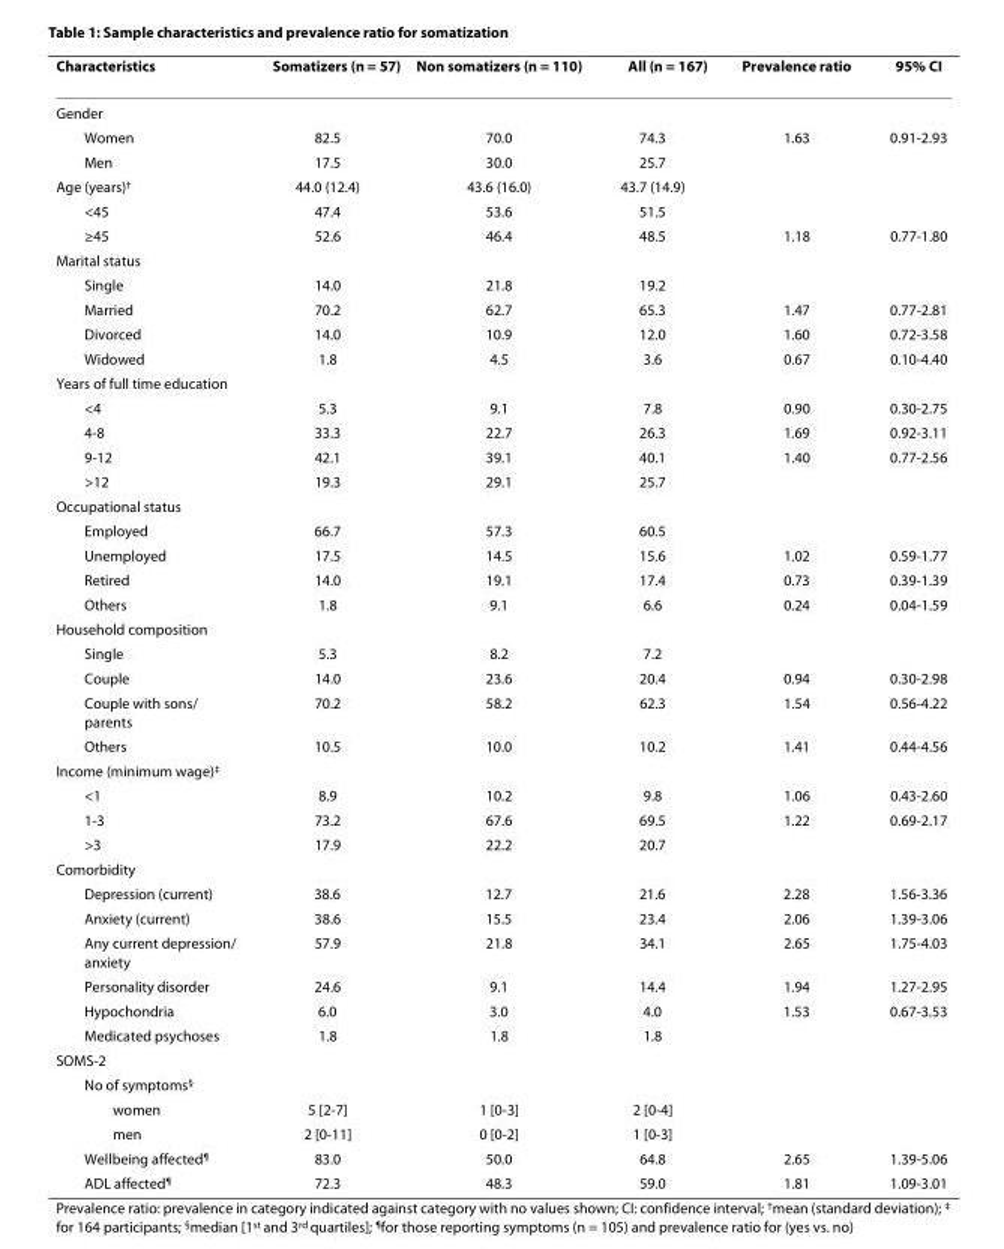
<table><thead><tr><td>Characteristics</td><td>Somatizers (n = 57)</td><td>Non somatizers (n = 110)</td><td>All (n = 167)</td><td>Prevalence ratio</td><td>95% CI</td></tr></thead><tbody><tr><td colspan="6">Gender</td></tr><tr><td>Women</td><td>82.5</td><td>70.0</td><td>74.3</td><td>1.63</td><td>0.91-2.93</td></tr><tr><td>Men</td><td>17.5</td><td>30.0</td><td>25.7</td><td></td><td></td></tr><tr><td>Age (years)<sup>†</sup></td><td>44.0 (12.4)</td><td>43.6 (16.0)</td><td>43.7 (14.9)</td><td></td><td></td></tr><tr><td>&lt;45</td><td>47.4</td><td>53.6</td><td>51.5</td><td></td><td></td></tr><tr><td>≥45</td><td>52.6</td><td>46.4</td><td>48.5</td><td>1.18</td><td>0.77-1.80</td></tr><tr><td colspan="6">Marital status</td></tr><tr><td>Single</td><td>14.0</td><td>21.8</td><td>19.2</td><td></td><td></td></tr><tr><td>Married</td><td>70.2</td><td>62.7</td><td>65.3</td><td>1.47</td><td>0.77-2.81</td></tr><tr><td>Divorced</td><td>14.0</td><td>10.9</td><td>12.0</td><td>1.60</td><td>0.72-3.58</td></tr><tr><td>Widowed</td><td>1.8</td><td>4.5</td><td>3.6</td><td>0.67</td><td>0.10-4.40</td></tr><tr><td colspan="6">Years of full time education</td></tr><tr><td>&lt;4</td><td>5.3</td><td>9.1</td><td>7.8</td><td>0.90</td><td>0.30-2.75</td></tr><tr><td>4-8</td><td>33.3</td><td>22.7</td><td>26.3</td><td>1.69</td><td>0.92-3.11</td></tr><tr><td>9-12</td><td>42.1</td><td>39.1</td><td>40.1</td><td>1.40</td><td>0.77-2.56</td></tr><tr><td>&gt;12</td><td>19.3</td><td>29.1</td><td>25.7</td><td></td><td></td></tr><tr><td colspan="6">Occupational status</td></tr><tr><td>Employed</td><td>66.7</td><td>57.3</td><td>60.5</td><td></td><td></td></tr><tr><td>Unemployed</td><td>17.5</td><td>14.5</td><td>15.6</td><td>1.02</td><td>0.59-1.77</td></tr><tr><td>Retired</td><td>14.0</td><td>19.1</td><td>17.4</td><td>0.73</td><td>0.39-1.39</td></tr><tr><td>Others</td><td>1.8</td><td>9.1</td><td>6.6</td><td>0.24</td><td>0.04-1.59</td></tr><tr><td colspan="6">Household composition</td></tr><tr><td>Single</td><td>5.3</td><td>8.2</td><td>7.2</td><td></td><td></td></tr><tr><td>Couple</td><td>14.0</td><td>23.6</td><td>20.4</td><td>0.94</td><td>0.30-2.98</td></tr><tr><td>Couple with sons/ parents</td><td>70.2</td><td>58.2</td><td>62.3</td><td>1.54</td><td>0.56-4.22</td></tr><tr><td>Others</td><td>10.5</td><td>10.0</td><td>10.2</td><td>1.41</td><td>0.44-4.56</td></tr><tr><td colspan="6">Income (minimum wage)<sup>‡</sup></td></tr><tr><td>&lt;1</td><td>8.9</td><td>10.2</td><td>9.8</td><td>1.06</td><td>0.43-2.60</td></tr><tr><td>1-3</td><td>73.2</td><td>67.6</td><td>69.5</td><td>1.22</td><td>0.69-2.17</td></tr><tr><td>&gt;3</td><td>17.9</td><td>22.2</td><td>20.7</td><td></td><td></td></tr><tr><td colspan="6">Comorbidity</td></tr><tr><td>Depression (current)</td><td>38.6</td><td>12.7</td><td>21.6</td><td>2.28</td><td>1.56-3.36</td></tr><tr><td>Anxiety (current)</td><td>38.6</td><td>15.5</td><td>23.4</td><td>2.06</td><td>1.39-3.06</td></tr><tr><td>Any current depression/ anxiety</td><td>57.9</td><td>21.8</td><td>34.1</td><td>2.65</td><td>1.75-4.03</td></tr><tr><td>Personality disorder</td><td>24.6</td><td>9.1</td><td>14.4</td><td>1.94</td><td>1.27-2.95</td></tr><tr><td>Hypochondria</td><td>6.0</td><td>3.0</td><td>4.0</td><td>1.53</td><td>0.67-3.53</td></tr><tr><td>Medicated psychoses</td><td>1.8</td><td>1.8</td><td>1.8</td><td></td><td></td></tr><tr><td colspan="6">SOMS-2</td></tr><tr><td colspan="6">No of symptoms<sup>§</sup></td></tr><tr><td>women</td><td>5 [2-7]</td><td>1 [0-3]</td><td>2 [0-4]</td><td></td><td></td></tr><tr><td>men</td><td>2 [0-11]</td><td>0 [0-2]</td><td>1 [0-3]</td><td></td><td></td></tr><tr><td>Wellbeing affected<sup>¶</sup></td><td>83.0</td><td>50.0</td><td>64.8</td><td>2.65</td><td>1.39-5.06</td></tr><tr><td>ADL affected<sup>¶</sup></td><td>72.3</td><td>48.3</td><td>59.0</td><td>1.81</td><td>1.09-3.01</td></tr></tbody></table>